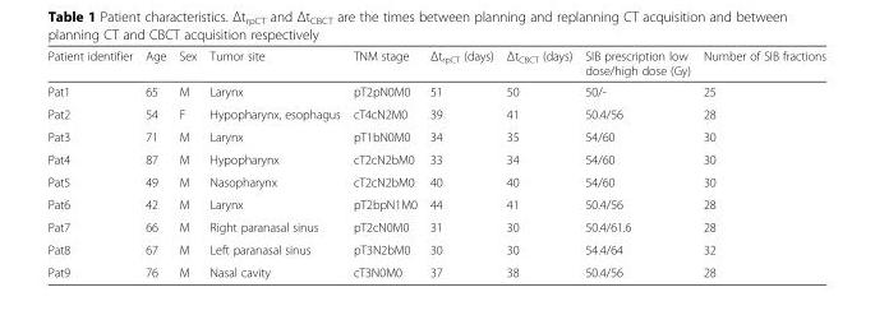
<table><thead><tr><td>Patient identifier</td><td>Age</td><td>Sex</td><td>Tumor site</td><td>TNM stage</td><td>Δt<sub>rpCT</sub> (days)</td><td>Δt<sub>CBCT</sub> (days)</td><td>SIB prescription low dose/high dose (Gy)</td><td>Number of SIB fractions</td></tr></thead><tbody><tr><td>Pat1</td><td>65</td><td>M</td><td>Larynx</td><td>pT2pN0M0</td><td>51</td><td>50</td><td>50/-</td><td>25</td></tr><tr><td>Pat2</td><td>54</td><td>F</td><td>Hypopharynx, esophagus</td><td>cT4cN2M0</td><td>39</td><td>41</td><td>50.4/56</td><td>28</td></tr><tr><td>Pat3</td><td>71</td><td>M</td><td>Larynx</td><td>pT1bN0M0</td><td>34</td><td>35</td><td>54/60</td><td>30</td></tr><tr><td>Pat4</td><td>87</td><td>M</td><td>Hypopharynx</td><td>cT2cN2bM0</td><td>33</td><td>34</td><td>54/60</td><td>30</td></tr><tr><td>Pat5</td><td>49</td><td>M</td><td>Nasopharynx</td><td>cT2cN2bM0</td><td>40</td><td>40</td><td>54/60</td><td>30</td></tr><tr><td>Pat6</td><td>42</td><td>M</td><td>Larynx</td><td>pT2bpN1M0</td><td>44</td><td>41</td><td>50.4/56</td><td>28</td></tr><tr><td>Pat7</td><td>66</td><td>M</td><td>Right paranasal sinus</td><td>pT2cN0M0</td><td>31</td><td>30</td><td>50.4/61.6</td><td>28</td></tr><tr><td>Pat8</td><td>67</td><td>M</td><td>Left paranasal sinus</td><td>pT3N2bM0</td><td>30</td><td>30</td><td>54.4/64</td><td>32</td></tr><tr><td>Pat9</td><td>76</td><td>M</td><td>Nasal cavity</td><td>cT3N0M0</td><td>37</td><td>38</td><td>50.4/56</td><td>28</td></tr></tbody></table>